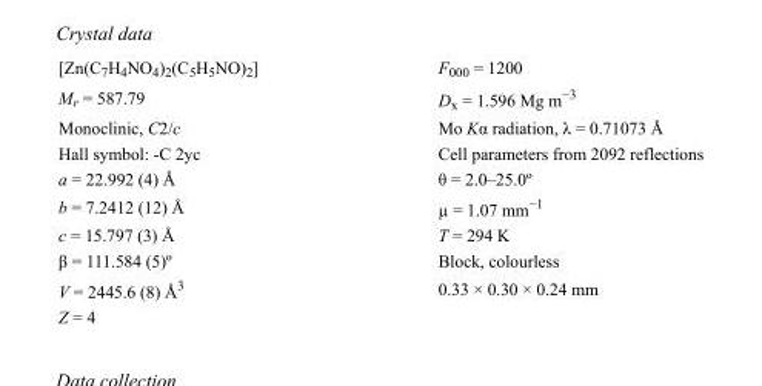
<table><tbody><tr><td>[Zn(C<sub>7</sub>H<sub>4</sub>NO<sub>4</sub>)<sub>2</sub>(C<sub>5</sub>H<sub>5</sub>NO)<sub>2</sub>]</td><td>F000 = 1200</td></tr><tr><td>M<sub>r</sub> = 587.79</td><td>D<sub>x</sub> = 1.596 Mg m<sup>−3</sup></td></tr><tr><td>Monoclinic, C2/c</td><td>Mo Kα radiation, λ = 0.71073 Å</td></tr><tr><td>Hall symbol: -C 2yc</td><td>Cell parameters from 2092 reflections</td></tr><tr><td>a = 22.992 (4) Å</td><td>θ = 2.0–25.0º</td></tr><tr><td>b = 7.2412 (12) Å</td><td>µ = 1.07 mm<sup>−1</sup></td></tr><tr><td>c = 15.797 (3) Å</td><td>T = 294 K</td></tr><tr><td>β = 111.584 (5)º</td><td>Block, colourless</td></tr><tr><td>V = 2445.6 (8) Å<sup>3</sup></td><td>0.33 × 0.30 × 0.24 mm</td></tr><tr><td>Z = 4</td><td></td></tr></tbody></table>